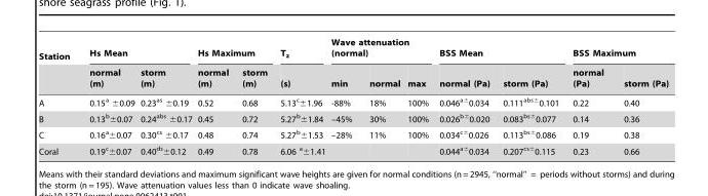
<table><thead><tr><td rowspan="2">Station</td><td colspan="2">Hs Mean</td><td colspan="2">Hs Maximum</td><td rowspan="2">T<sub>z</sub> (s)</td><td colspan="3">Wave attenuation (normal)</td><td colspan="2">BSS Mean</td><td colspan="2">BSS Maximum</td></tr><tr><td>normal (m)</td><td>storm (m)</td><td>normal (m)</td><td>storm (m)</td><td>min</td><td>normal</td><td>max</td><td>normal (Pa)</td><td>storm (Pa)</td><td>normal (Pa)</td><td>storm (Pa)</td></tr></thead><tbody><tr><td>A</td><td>0.15<sup>a</sup> ±0.09</td><td>0.23<sup>as</sup> ±0.19</td><td>0.52</td><td>0.68</td><td>5.13<sup>c</sup>±1.96</td><td>-88%</td><td>18%</td><td>100%</td><td>0.046<sup>a±</sup>0.034</td><td>0.111<sup>abs±</sup>0.101</td><td>0.22</td><td>0.40</td></tr><tr><td>B</td><td>0.13<sup>b</sup>±0.07</td><td>0.24<sup>abs</sup> ±0.17</td><td>0.45</td><td>0.72</td><td>5.27<sup>b</sup>±1.84</td><td>–45%</td><td>30%</td><td>100%</td><td>0.026<sup>b±</sup>0.020</td><td>0.083<sup>bs±</sup>0.077</td><td>0.14</td><td>0.36</td></tr><tr><td>C</td><td>0.16<sup>a</sup>±0.07</td><td>0.30<sup>cs</sup> ±0.17</td><td>0.48</td><td>0.74</td><td>5.27<sup>b</sup>±1.53</td><td>–28%</td><td>11%</td><td>100%</td><td>0.034<sup>c±</sup>0.026</td><td>0.113<sup>bs±</sup>0.086</td><td>0.19</td><td>0.38</td></tr><tr><td>Coral</td><td>0.19<sup>c</sup>±0.07</td><td>0.40<sup>ds</sup>±0.12</td><td>0.49</td><td>0.78</td><td>6.06 <sup>a</sup>±1.41</td><td></td><td></td><td></td><td>0.044<sup>a±</sup>0.034</td><td>0.207<sup>cs±</sup>0.115</td><td>0.23</td><td>0.66</td></tr></tbody></table>